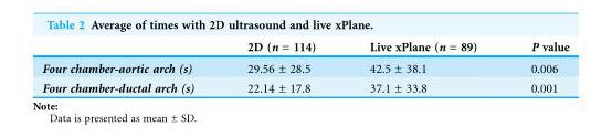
<table><thead><tr><td></td><td>2D (n = 114)</td><td>Live xPlane (n = 89)</td><td>P value</td></tr></thead><tbody><tr><td>Four chamber-aortic arch (s)</td><td>29.56 ± 28.5</td><td>42.5 ± 38.1</td><td>0.006</td></tr><tr><td>Four chamber-ductal arch (s)</td><td>22.14 ± 17.8</td><td>37.1 ± 33.8</td><td>0.001</td></tr></tbody></table>